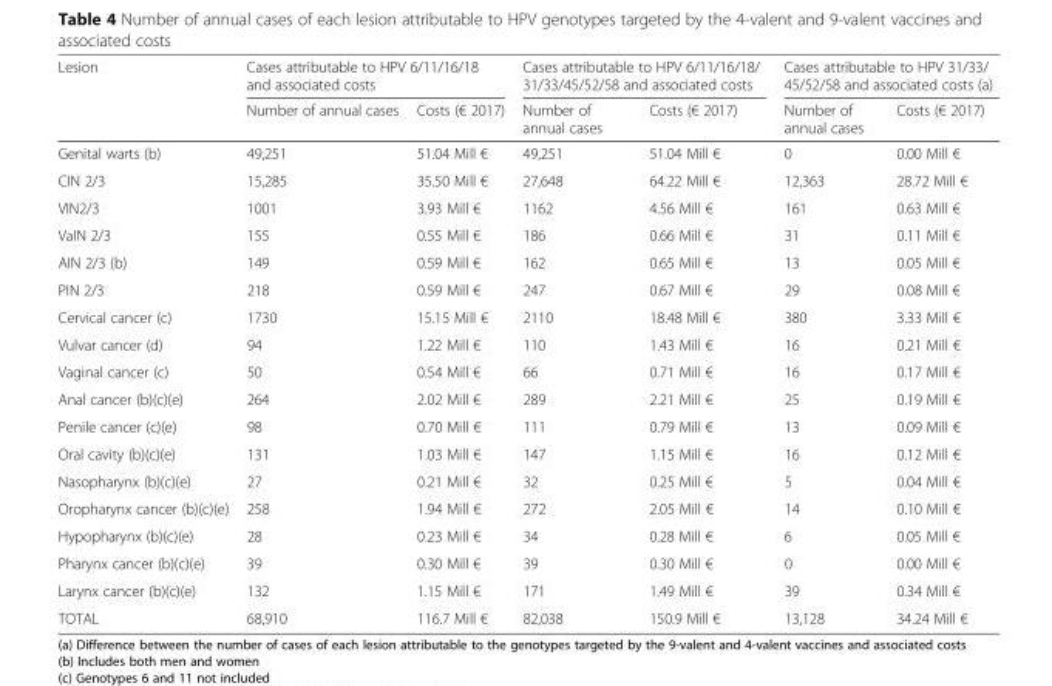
<table><thead><tr><td rowspan="2">Lesion</td><td colspan="2">Cases attributable to HPV 6/11/16/18 and associated costs</td><td colspan="2">Cases attributable to HPV 6/11/16/18/ 31/33/45/52/58 and associated costs</td><td colspan="2">Cases attributable to HPV 31/33/ 45/52/58 and associated costs (a)</td></tr><tr><td>Number of annual cases</td><td>Costs (€ 2017)</td><td>Number of annual cases</td><td>Costs (€ 2017)</td><td>Number of annual cases</td><td>Costs (€ 2017)</td></tr></thead><tbody><tr><td>Genital warts (b)</td><td>49,251</td><td>51.04 Mill €</td><td>49,251</td><td>51.04 Mill €</td><td>0</td><td>0.00 Mill €</td></tr><tr><td>CIN 2/3</td><td>15,285</td><td>35.50 Mill €</td><td>27,648</td><td>64.22 Mill €</td><td>12,363</td><td>28.72 Mill €</td></tr><tr><td>VIN2/3</td><td>1001</td><td>3.93 Mill €</td><td>1162</td><td>4.56 Mill €</td><td>161</td><td>0.63 Mill €</td></tr><tr><td>VaIN 2/3</td><td>155</td><td>0.55 Mill €</td><td>186</td><td>0.66 Mill €</td><td>31</td><td>0.11 Mill €</td></tr><tr><td>AIN 2/3 (b)</td><td>149</td><td>0.59 Mill €</td><td>162</td><td>0.65 Mill €</td><td>13</td><td>0.05 Mill €</td></tr><tr><td>PIN 2/3</td><td>218</td><td>0.59 Mill €</td><td>247</td><td>0.67 Mill €</td><td>29</td><td>0.08 Mill €</td></tr><tr><td>Cervical cancer (c)</td><td>1730</td><td>15.15 Mill €</td><td>2110</td><td>18.48 Mill €</td><td>380</td><td>3.33 Mill €</td></tr><tr><td>Vulvar cancer (d)</td><td>94</td><td>1.22 Mill €</td><td>110</td><td>1.43 Mill €</td><td>16</td><td>0.21 Mill €</td></tr><tr><td>Vaginal cancer (c)</td><td>50</td><td>0.54 Mill €</td><td>66</td><td>0.71 Mill €</td><td>16</td><td>0.17 Mill €</td></tr><tr><td>Anal cancer (b)(c)(e)</td><td>264</td><td>2.02 Mill €</td><td>289</td><td>2.21 Mill €</td><td>25</td><td>0.19 Mill €</td></tr><tr><td>Penile cancer (c)(e)</td><td>98</td><td>0.70 Mill €</td><td>111</td><td>0.79 Mill €</td><td>13</td><td>0.09 Mill €</td></tr><tr><td>Oral cavity (b)(c)(e)</td><td>131</td><td>1.03 Mill €</td><td>147</td><td>1.15 Mill €</td><td>16</td><td>0.12 Mill €</td></tr><tr><td>Nasopharynx (b)(c)(e)</td><td>27</td><td>0.21 Mill €</td><td>32</td><td>0.25 Mill €</td><td>5</td><td>0.04 Mill €</td></tr><tr><td>Oropharynx cancer (b)(c)(e)</td><td>258</td><td>1.94 Mill €</td><td>272</td><td>2.05 Mill €</td><td>14</td><td>0.10 Mill €</td></tr><tr><td>Hypopharynx (b)(c)(e)</td><td>28</td><td>0.23 Mill €</td><td>34</td><td>0.28 Mill €</td><td>6</td><td>0.05 Mill €</td></tr><tr><td>Pharynx cancer (b)(c)(e)</td><td>39</td><td>0.30 Mill €</td><td>39</td><td>0.30 Mill €</td><td>0</td><td>0.00 Mill €</td></tr><tr><td>Larynx cancer (b)(c)(e)</td><td>132</td><td>1.15 Mill €</td><td>171</td><td>1.49 Mill €</td><td>39</td><td>0.34 Mill €</td></tr><tr><td>TOTAL</td><td>68,910</td><td>116.7 Mill €</td><td>82,038</td><td>150.9 Mill €</td><td>13,128</td><td>34.24 Mill €</td></tr></tbody></table>